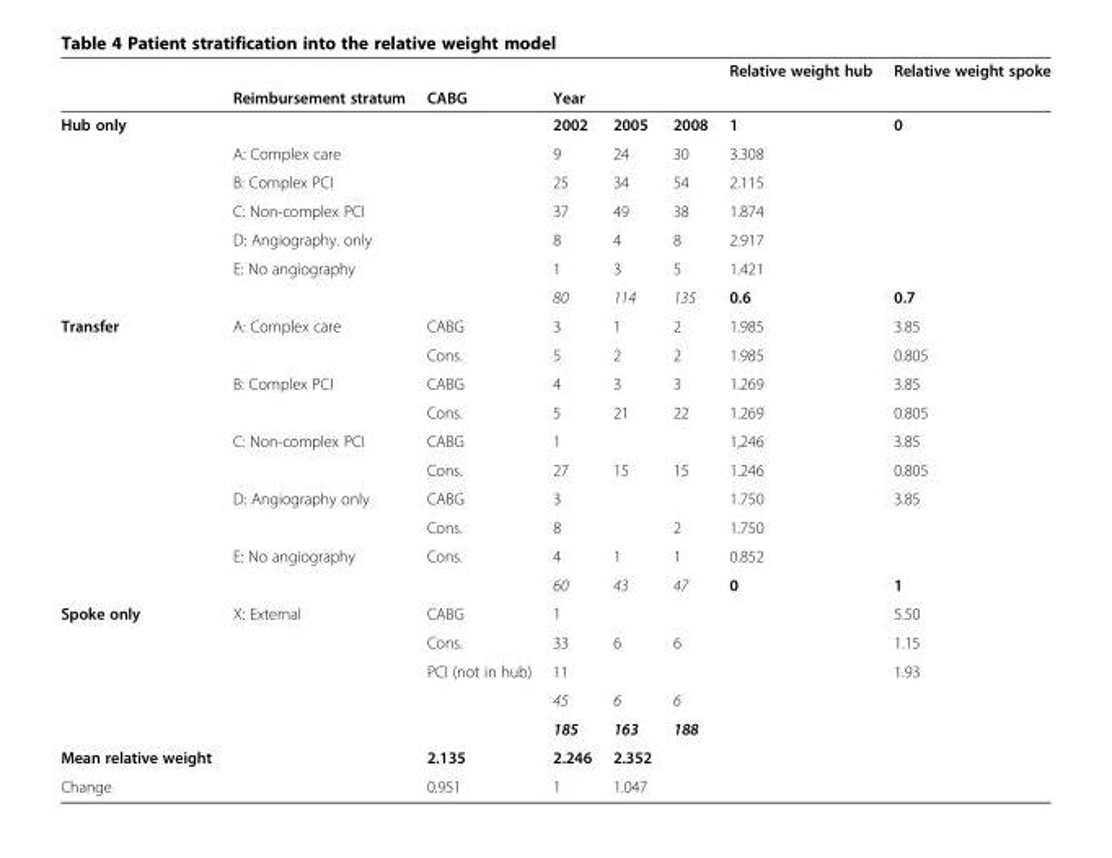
<table><thead><tr><td rowspan="2"></td><td rowspan="2">Reimbursement stratum</td><td rowspan="2">CABG</td><td rowspan="2">Year</td><td rowspan="2"></td><td rowspan="2"></td><td rowspan="2">Relative weight hub</td><td rowspan="2">Relative weight spoke</td></tr><tr></tr></thead><tbody><tr><td rowspan="7">Hub only</td><td></td><td></td><td>2002</td><td>2005</td><td>2008</td><td>1</td><td>0</td></tr><tr><td>A: Complex care</td><td></td><td>9</td><td>24</td><td>30</td><td>3.308</td><td></td></tr><tr><td>B: Complex PCI</td><td></td><td>25</td><td>34</td><td>54</td><td>2.115</td><td></td></tr><tr><td>C: Non-complex PCI</td><td></td><td>37</td><td>49</td><td>38</td><td>1.874</td><td></td></tr><tr><td>D: Angiography. only</td><td></td><td>8</td><td>4</td><td>8</td><td>2.917</td><td></td></tr><tr><td>E: No angiography</td><td></td><td>1</td><td>3</td><td>5</td><td>1.421</td><td></td></tr><tr><td></td><td></td><td>80</td><td>114</td><td>135</td><td>0.6</td><td>0.7</td></tr><tr><td rowspan="10">Transfer</td><td>A: Complex care</td><td>CABG</td><td>3</td><td>1</td><td>2</td><td>1.985</td><td>3.85</td></tr><tr><td></td><td>Cons.</td><td>5</td><td>2</td><td>2</td><td>1.985</td><td>0.805</td></tr><tr><td>B: Complex PCI</td><td>CABG</td><td>4</td><td>3</td><td>3</td><td>1.269</td><td>3.85</td></tr><tr><td></td><td>Cons.</td><td>5</td><td>21</td><td>22</td><td>1.269</td><td>0.805</td></tr><tr><td>C: Non-complex PCI</td><td>CABG</td><td>1</td><td></td><td></td><td>1,246</td><td>3.85</td></tr><tr><td></td><td>Cons.</td><td>27</td><td>15</td><td>15</td><td>1.246</td><td>0.805</td></tr><tr><td>D: Angiography only</td><td>CABG</td><td>3</td><td></td><td></td><td>1.750</td><td>3.85</td></tr><tr><td></td><td>Cons.</td><td>8</td><td></td><td>2</td><td>1.750</td><td></td></tr><tr><td>E: No angiography</td><td>Cons.</td><td>4</td><td>1</td><td>1</td><td>0.852</td><td></td></tr><tr><td></td><td></td><td>60</td><td>43</td><td>47</td><td>0</td><td>1</td></tr><tr><td rowspan="5">Spoke only</td><td>X: External</td><td>CABG</td><td>1</td><td></td><td></td><td></td><td>5.50</td></tr><tr><td></td><td>Cons.</td><td>33</td><td>6</td><td>6</td><td></td><td>1.15</td></tr><tr><td></td><td>PCI (not in hub)</td><td>11</td><td></td><td></td><td></td><td>1.93</td></tr><tr><td></td><td></td><td>45</td><td>6</td><td>6</td><td></td><td></td></tr><tr><td></td><td></td><td>185</td><td>163</td><td>188</td><td></td><td></td></tr><tr><td>Mean relative weight</td><td></td><td>2.135</td><td>2.246</td><td>2.352</td><td></td><td></td><td></td></tr><tr><td>Change</td><td></td><td>0.951</td><td>1</td><td>1.047</td><td></td><td></td><td></td></tr></tbody></table>